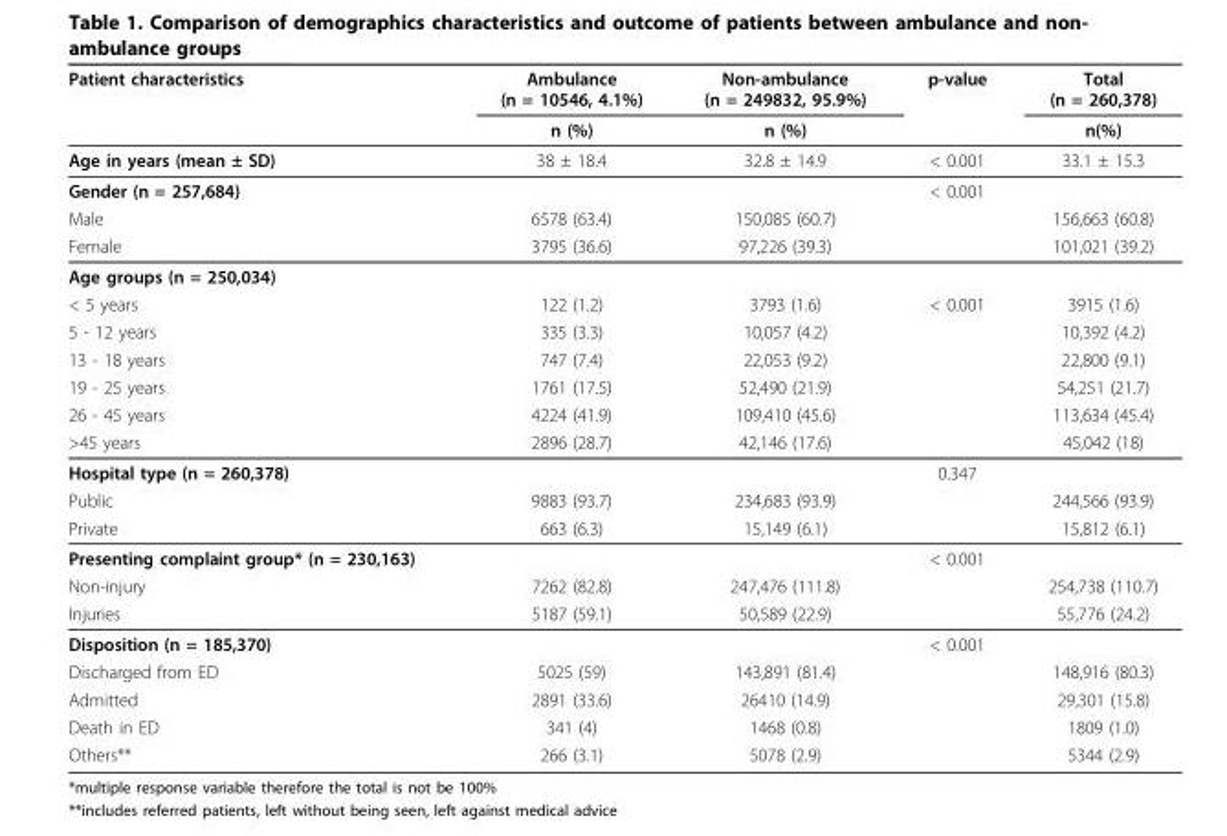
<table><thead><tr><td rowspan="2">Patient characteristics</td><td rowspan="2">Ambulance (n = 10546, 4.1%) n (%)</td><td rowspan="2">Non-ambulance (n = 249832, 95.9%) n (%)</td><td rowspan="2">p-value</td><td rowspan="2">Total (n = 260,378) n(%)</td></tr><tr></tr></thead><tbody><tr><td>Age in years (mean ± SD)</td><td>38 ± 18.4</td><td>32.8 ± 14.9</td><td>&lt; 0.001</td><td>33.1 ± 15.3</td></tr><tr><td>Gender (n = 257,684)</td><td></td><td></td><td>&lt; 0.001</td><td></td></tr><tr><td>Male</td><td>6578 (63.4)</td><td>150,085 (60.7)</td><td></td><td>156,663 (60.8)</td></tr><tr><td>Female</td><td>3795 (36.6)</td><td>97,226 (39.3)</td><td></td><td>101,021 (39.2)</td></tr><tr><td colspan="5">Age groups (n = 250,034)</td></tr><tr><td>&lt; 5 years</td><td>122 (1.2)</td><td>3793 (1.6)</td><td>&lt; 0.001</td><td>3915 (1.6)</td></tr><tr><td>5 - 12 years</td><td>335 (3.3)</td><td>10,057 (4.2)</td><td></td><td>10,392 (4.2)</td></tr><tr><td>13 - 18 years</td><td>747 (7.4)</td><td>22,053 (9.2)</td><td></td><td>22,800 (9.1)</td></tr><tr><td>19 - 25 years</td><td>1761 (17.5)</td><td>52,490 (21.9)</td><td></td><td>54,251 (21.7)</td></tr><tr><td>26 - 45 years</td><td>4224 (41.9)</td><td>109,410 (45.6)</td><td></td><td>113,634 (45.4)</td></tr><tr><td>&gt;45 years</td><td>2896 (28.7)</td><td>42,146 (17.6)</td><td></td><td>45,042 (18)</td></tr><tr><td>Hospital type (n = 260,378)</td><td></td><td></td><td>0.347</td><td></td></tr><tr><td>Public</td><td>9883 (93.7)</td><td>234,683 (93.9)</td><td></td><td>244,566 (93.9)</td></tr><tr><td>Private</td><td>663 (6.3)</td><td>15,149 (6.1)</td><td></td><td>15,812 (6.1)</td></tr><tr><td>Presenting complaint group* (n = 230,163)</td><td></td><td></td><td>&lt; 0.001</td><td></td></tr><tr><td>Non-injury</td><td>7262 (82.8)</td><td>247,476 (111.8)</td><td></td><td>254,738 (110.7)</td></tr><tr><td>Injuries</td><td>5187 (59.1)</td><td>50,589 (22.9)</td><td></td><td>55,776 (24.2)</td></tr><tr><td>Disposition (n = 185,370)</td><td></td><td></td><td>&lt; 0.001</td><td></td></tr><tr><td>Discharged from ED</td><td>5025 (59)</td><td>143,891 (81.4)</td><td></td><td>148,916 (80.3)</td></tr><tr><td>Admitted</td><td>2891 (33.6)</td><td>26410 (14.9)</td><td></td><td>29,301 (15.8)</td></tr><tr><td>Death in ED</td><td>341 (4)</td><td>1468 (0.8)</td><td></td><td>1809 (1.0)</td></tr><tr><td>Others**</td><td>266 (3.1)</td><td>5078 (2.9)</td><td></td><td>5344 (2.9)</td></tr></tbody></table>